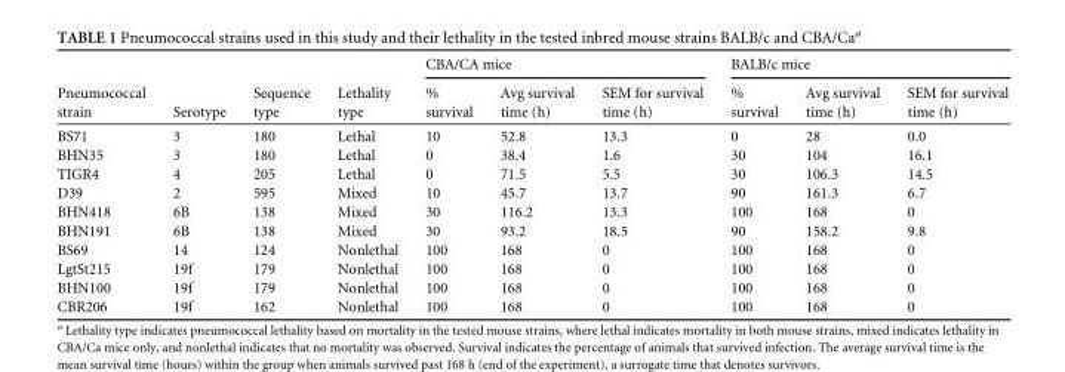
<table><thead><tr><td rowspan="2">Pneumococcal strain</td><td rowspan="2">Serotype</td><td rowspan="2">Sequence type</td><td rowspan="2">Lethality type</td><td colspan="3">CBA/CA mice</td><td colspan="3">BALB/c mice</td></tr><tr><td>% survival</td><td>Avg survival time (h)</td><td>SEM for survival time (h)</td><td>% survival</td><td>Avg survival time (h)</td><td>SEM for survival time (h)</td></tr></thead><tbody><tr><td>BS71</td><td>3</td><td>180</td><td>Lethal</td><td>10</td><td>52.8</td><td>13.3</td><td>0</td><td>28</td><td>0.0</td></tr><tr><td>BHN35</td><td>3</td><td>180</td><td>Lethal</td><td>0</td><td>38.4</td><td>1.6</td><td>30</td><td>104</td><td>16.1</td></tr><tr><td>TIGR4</td><td>4</td><td>205</td><td>Lethal</td><td>0</td><td>71.5</td><td>5.5</td><td>30</td><td>106.3</td><td>14.5</td></tr><tr><td>D39</td><td>2</td><td>595</td><td>Mixed</td><td>10</td><td>45.7</td><td>13.7</td><td>90</td><td>161.3</td><td>6.7</td></tr><tr><td>BHN418</td><td>6B</td><td>138</td><td>Mixed</td><td>30</td><td>116.2</td><td>13.3</td><td>100</td><td>168</td><td>0</td></tr><tr><td>BHN191</td><td>6B</td><td>138</td><td>Mixed</td><td>30</td><td>93.2</td><td>18.5</td><td>90</td><td>158.2</td><td>9.8</td></tr><tr><td>BS69</td><td>14</td><td>124</td><td>Nonlethal</td><td>100</td><td>168</td><td>0</td><td>100</td><td>168</td><td>0</td></tr><tr><td>LgtSt215</td><td>19f</td><td>179</td><td>Nonlethal</td><td>100</td><td>168</td><td>0</td><td>100</td><td>168</td><td>0</td></tr><tr><td>BHN100</td><td>19f</td><td>179</td><td>Nonlethal</td><td>100</td><td>168</td><td>0</td><td>100</td><td>168</td><td>0</td></tr><tr><td>CBR206</td><td>19f</td><td>162</td><td>Nonlethal</td><td>100</td><td>168</td><td>0</td><td>100</td><td>168</td><td>0</td></tr></tbody></table>